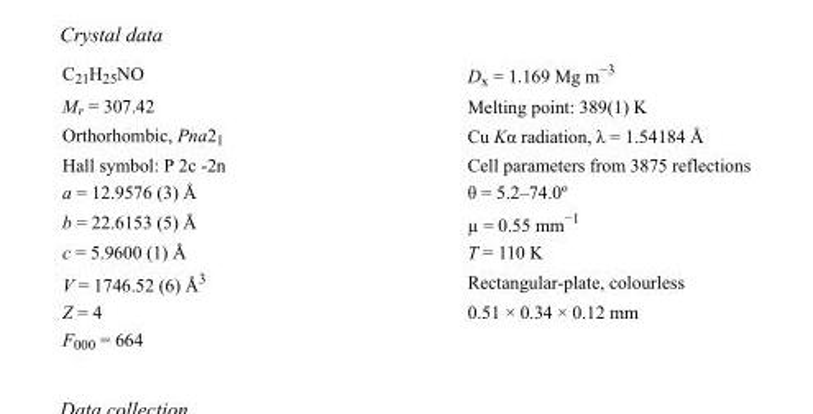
<table><tbody><tr><td>C<sub>21</sub>H<sub>25</sub>NO</td><td>D<sub>x</sub> = 1.169 Mg m<sup>−3</sup></td></tr><tr><td>M<sub>r</sub> = 307.42</td><td>Melting point: 389(1) K</td></tr><tr><td>Orthorhombic, Pna2<sub>1</sub></td><td>Cu Kα radiation, λ = 1.54184 Å</td></tr><tr><td>Hall symbol: P 2c -2n</td><td>Cell parameters from 3875 reflections</td></tr><tr><td>a = 12.9576 (3) Å</td><td>θ = 5.2–74.0º</td></tr><tr><td>b = 22.6153 (5) Å</td><td>µ = 0.55 mm<sup>−1</sup></td></tr><tr><td>c = 5.9600 (1) Å</td><td>T = 110 K</td></tr><tr><td>V = 1746.52 (6) Å<sup>3</sup></td><td>Rectangular-plate, colourless</td></tr><tr><td>Z = 4</td><td>0.51 × 0.34 × 0.12 mm</td></tr><tr><td>F000 = 664</td><td></td></tr></tbody></table>